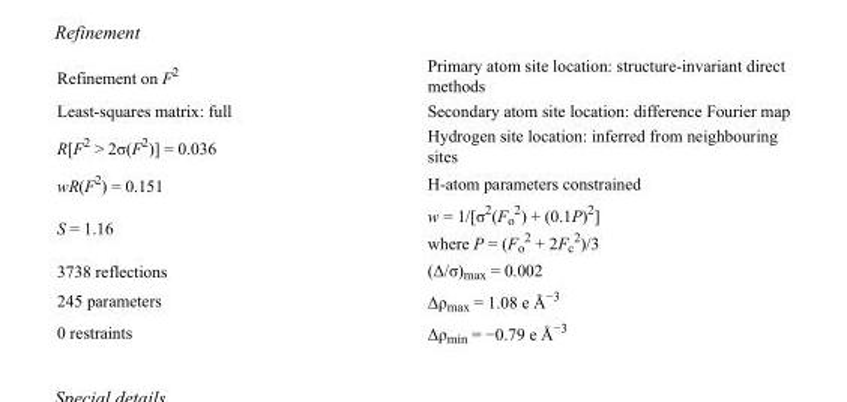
<table><tbody><tr><td>Refinement on F<sup>2</sup></td><td>Primary atom site location: structure-invariant direct methods</td></tr><tr><td>Least-squares matrix: full</td><td>Secondary atom site location: difference Fourier map</td></tr><tr><td>R[F<sup>2</sup> &gt; 2σ(F<sup>2</sup>)] = 0.036</td><td>Hydrogen site location: inferred from neighbouring sites</td></tr><tr><td>wR(F<sup>2</sup>) = 0.151</td><td>H-atom parameters constrained</td></tr><tr><td>S = 1.16</td><td>w = 1/[σ<sup>2</sup>(F<sub>o</sub> <sup>2</sup>) + (0.1P)<sup>2</sup>] where P = (F<sub>o</sub> <sup>2</sup> + 2F<sub>c</sub> <sup>2</sup>)/3</td></tr><tr><td>3738 reflections</td><td>(Δ/σ)<sub>max</sub> = 0.002</td></tr><tr><td>245 parameters</td><td>Δρ<sub>max</sub> = 1.08 e Å<sup>−3</sup></td></tr><tr><td>0 restraints</td><td>Δρ<sub>min</sub> = −0.79 e Å<sup>−3</sup></td></tr></tbody></table>